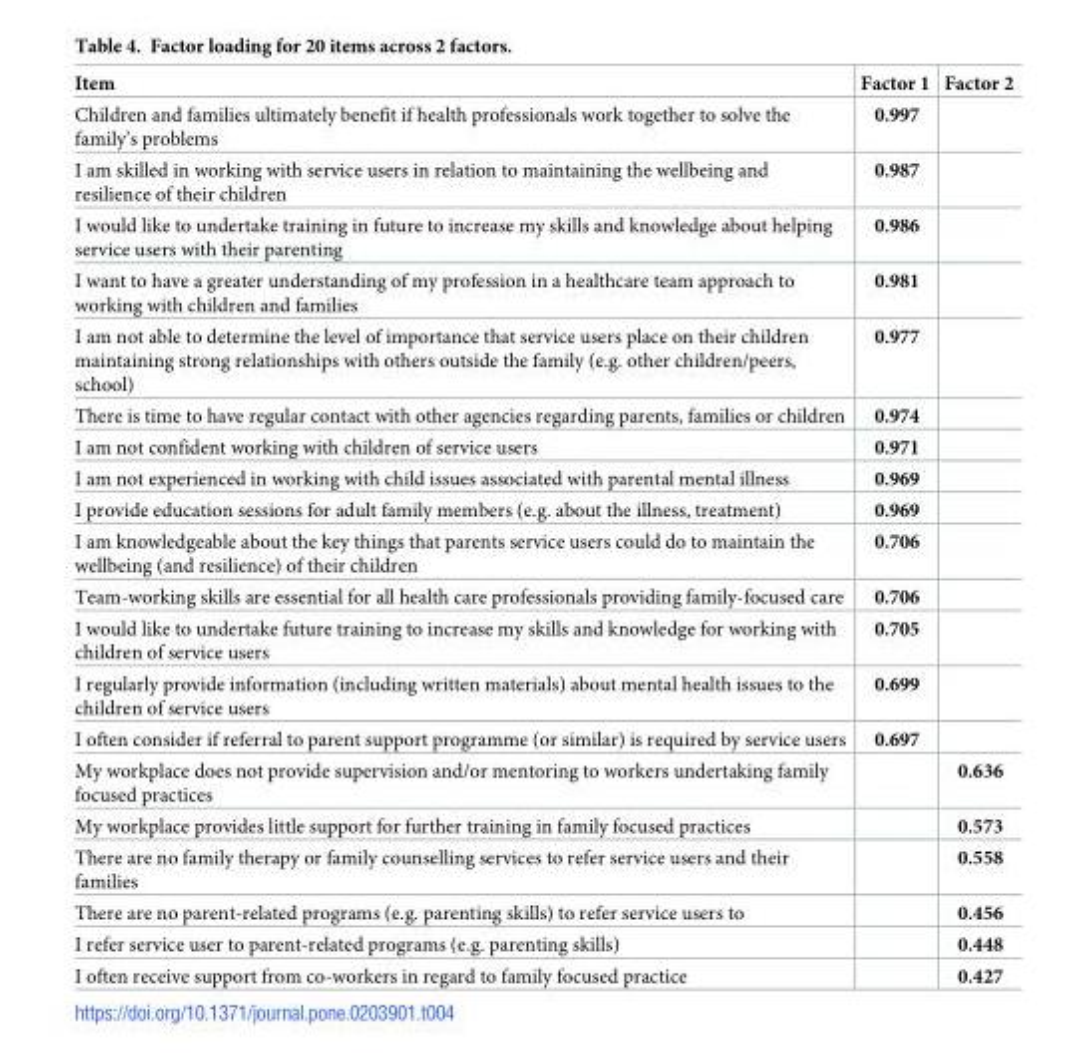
<table><thead><tr><td>Item</td><td>Factor 1</td><td>Factor 2</td></tr></thead><tbody><tr><td>Children and families ultimately benefit if health professionals work together to solve the family’s problems</td><td>0.997</td><td></td></tr><tr><td>I am skilled in working with service users in relation to maintaining the wellbeing and resilience of their children</td><td>0.987</td><td></td></tr><tr><td>I would like to undertake training in future to increase my skills and knowledge about helping service users with their parenting</td><td>0.986</td><td></td></tr><tr><td>I want to have a greater understanding of my profession in a healthcare team approach to working with children and families</td><td>0.981</td><td></td></tr><tr><td>I am not able to determine the level of importance that service users place on their children maintaining strong relationships with others outside the family (e.g. other children/peers, school)</td><td>0.977</td><td></td></tr><tr><td>There is time to have regular contact with other agencies regarding parents, families or children</td><td>0.974</td><td></td></tr><tr><td>I am not confident working with children of service users</td><td>0.971</td><td></td></tr><tr><td>I am not experienced in working with child issues associated with parental mental illness</td><td>0.969</td><td></td></tr><tr><td>I provide education sessions for adult family members (e.g. about the illness, treatment)</td><td>0.969</td><td></td></tr><tr><td>I am knowledgeable about the key things that parents service users could do to maintain the wellbeing (and resilience) of their children</td><td>0.706</td><td></td></tr><tr><td>Team-working skills are essential for all health care professionals providing family-focused care</td><td>0.706</td><td></td></tr><tr><td>I would like to undertake future training to increase my skills and knowledge for working with children of service users</td><td>0.705</td><td></td></tr><tr><td>I regularly provide information (including written materials) about mental health issues to the children of service users</td><td>0.699</td><td></td></tr><tr><td>I often consider if referral to parent support programme (or similar) is required by service users</td><td>0.697</td><td></td></tr><tr><td>My workplace does not provide supervision and/or mentoring to workers undertaking family focused practices</td><td></td><td>0.636</td></tr><tr><td>My workplace provides little support for further training in family focused practices</td><td></td><td>0.573</td></tr><tr><td>There are no family therapy or family counselling services to refer service users and their families</td><td></td><td>0.558</td></tr><tr><td>There are no parent-related programs (e.g. parenting skills) to refer service users to</td><td></td><td>0.456</td></tr><tr><td>I refer service user to parent-related programs (e.g. parenting skills)</td><td></td><td>0.448</td></tr><tr><td>I often receive support from co-workers in regard to family focused practice</td><td></td><td>0.427</td></tr></tbody></table>